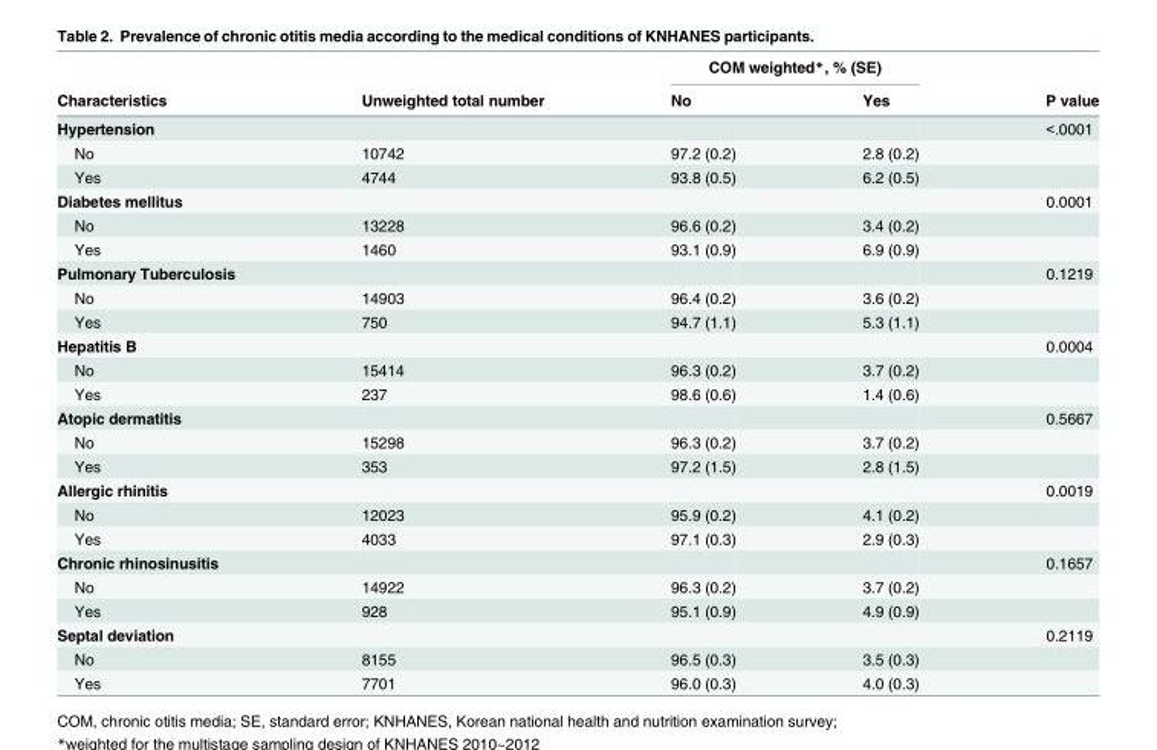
<table><thead><tr><td rowspan="2">Characteristics</td><td rowspan="2">Unweighted total number</td><td colspan="2">COM weighted*, % (SE)</td><td rowspan="2">P value</td></tr><tr><td>No</td><td>Yes</td></tr></thead><tbody><tr><td>Hypertension</td><td></td><td></td><td></td><td>&lt;.0001</td></tr><tr><td>No</td><td>10742</td><td>97.2 (0.2)</td><td>2.8 (0.2)</td><td></td></tr><tr><td>Yes</td><td>4744</td><td>93.8 (0.5)</td><td>6.2 (0.5)</td><td></td></tr><tr><td>Diabetes mellitus</td><td></td><td></td><td></td><td>0.0001</td></tr><tr><td>No</td><td>13228</td><td>96.6 (0.2)</td><td>3.4 (0.2)</td><td></td></tr><tr><td>Yes</td><td>1460</td><td>93.1 (0.9)</td><td>6.9 (0.9)</td><td></td></tr><tr><td>Pulmonary Tuberculosis</td><td></td><td></td><td></td><td>0.1219</td></tr><tr><td>No</td><td>14903</td><td>96.4 (0.2)</td><td>3.6 (0.2)</td><td></td></tr><tr><td>Yes</td><td>750</td><td>94.7 (1.1)</td><td>5.3 (1.1)</td><td></td></tr><tr><td>Hepatitis B</td><td></td><td></td><td></td><td>0.0004</td></tr><tr><td>No</td><td>15414</td><td>96.3 (0.2)</td><td>3.7 (0.2)</td><td></td></tr><tr><td>Yes</td><td>237</td><td>98.6 (0.6)</td><td>1.4 (0.6)</td><td></td></tr><tr><td>Atopic dermatitis</td><td></td><td></td><td></td><td>0.5667</td></tr><tr><td>No</td><td>15298</td><td>96.3 (0.2)</td><td>3.7 (0.2)</td><td></td></tr><tr><td>Yes</td><td>353</td><td>97.2 (1.5)</td><td>2.8 (1.5)</td><td></td></tr><tr><td>Allergic rhinitis</td><td></td><td></td><td></td><td>0.0019</td></tr><tr><td>No</td><td>12023</td><td>95.9 (0.2)</td><td>4.1 (0.2)</td><td></td></tr><tr><td>Yes</td><td>4033</td><td>97.1 (0.3)</td><td>2.9 (0.3)</td><td></td></tr><tr><td>Chronic rhinosinusitis</td><td></td><td></td><td></td><td>0.1657</td></tr><tr><td>No</td><td>14922</td><td>96.3 (0.2)</td><td>3.7 (0.2)</td><td></td></tr><tr><td>Yes</td><td>928</td><td>95.1 (0.9)</td><td>4.9 (0.9)</td><td></td></tr><tr><td>Septal deviation</td><td></td><td></td><td></td><td>0.2119</td></tr><tr><td>No</td><td>8155</td><td>96.5 (0.3)</td><td>3.5 (0.3)</td><td></td></tr><tr><td>Yes</td><td>7701</td><td>96.0 (0.3)</td><td>4.0 (0.3)</td><td></td></tr></tbody></table>